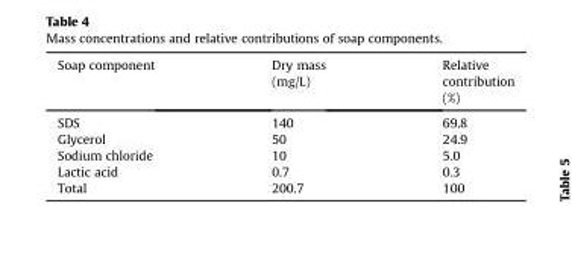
<table><thead><tr><td>Soap component</td><td>Dry mass (mg/L)</td><td>Relative contribution (%)</td></tr></thead><tbody><tr><td>SDS</td><td>140</td><td>69.8</td></tr><tr><td>Glycerol</td><td>50</td><td>24.9</td></tr><tr><td>Sodium chloride</td><td>10</td><td>5.0</td></tr><tr><td>Lactic acid</td><td>0.7</td><td>0.3</td></tr><tr><td>Total</td><td>200.7</td><td>100</td></tr></tbody></table>